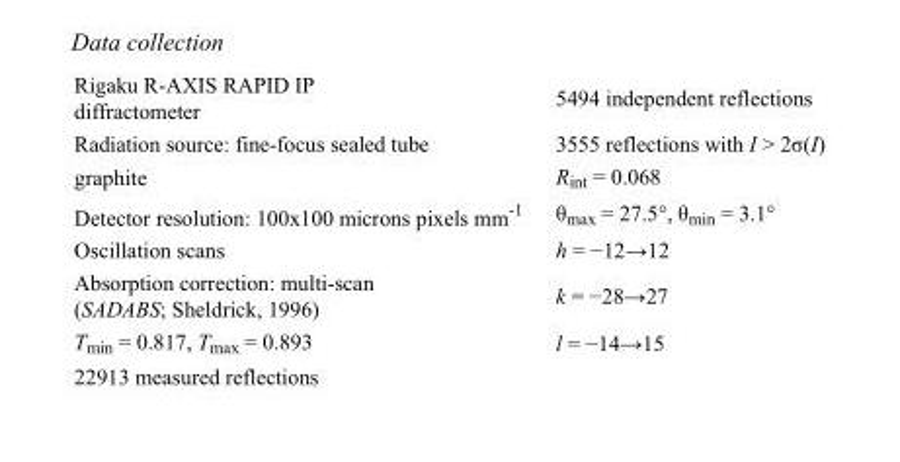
<table><tbody><tr><td>Rigaku R-AXIS RAPID IP diffractometer</td><td>5494 independent reflections</td></tr><tr><td>Radiation source: fine-focus sealed tube</td><td>3555 reflections with I &gt; 2σ(I)</td></tr><tr><td>graphite</td><td>R<sub>int</sub> = 0.068</td></tr><tr><td>Detector resolution: 100x100 microns pixels mm<sup>-1</sup></td><td>θ<sub>max</sub> = 27.5°, θ<sub>min</sub> = 3.1°</td></tr><tr><td>Oscillation scans</td><td>h = −12→12</td></tr><tr><td>Absorption correction: multi-scan (SADABS; Sheldrick, 1996)</td><td>k = −28→27</td></tr><tr><td>T<sub>min</sub> = 0.817, T<sub>max</sub> = 0.893</td><td>l = −14→15</td></tr><tr><td>22913 measured reflections</td><td></td></tr></tbody></table>